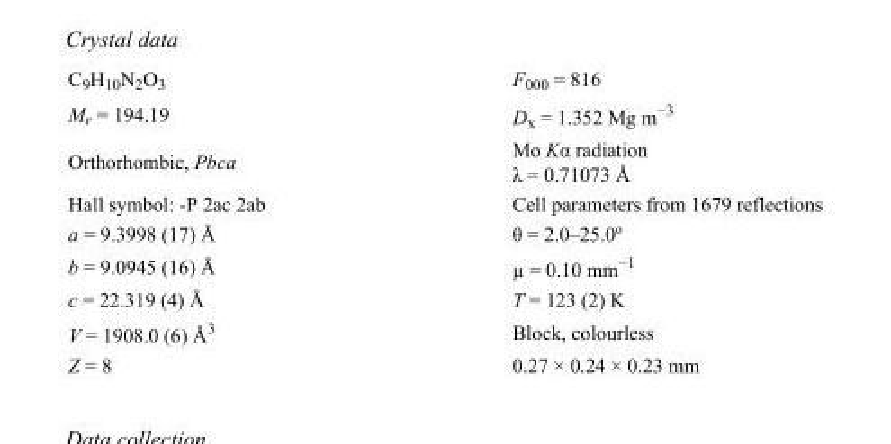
<table><tbody><tr><td>C<sub>9</sub>H<sub>10</sub>N<sub>2</sub>O<sub>3</sub></td><td>F<sub>000</sub> = 816</td></tr><tr><td>M<sub>r</sub> = 194.19</td><td>D<sub>x</sub> = 1.352 Mg m<sup>−3</sup></td></tr><tr><td>Orthorhombic, Pbca</td><td>Mo Kα radiation λ = 0.71073 Å</td></tr><tr><td>Hall symbol: -P 2ac 2ab</td><td>Cell parameters from 1679 reflections</td></tr><tr><td>a = 9.3998 (17) Å</td><td>θ = 2.0–25.0º</td></tr><tr><td>b = 9.0945 (16) Å</td><td>µ = 0.10 mm<sup>−1</sup></td></tr><tr><td>c = 22.319 (4) Å</td><td>T = 123 (2) K</td></tr><tr><td>V = 1908.0 (6) Å<sup>3</sup></td><td>Block, colourless</td></tr><tr><td>Z = 8</td><td>0.27 × 0.24 × 0.23 mm</td></tr></tbody></table>